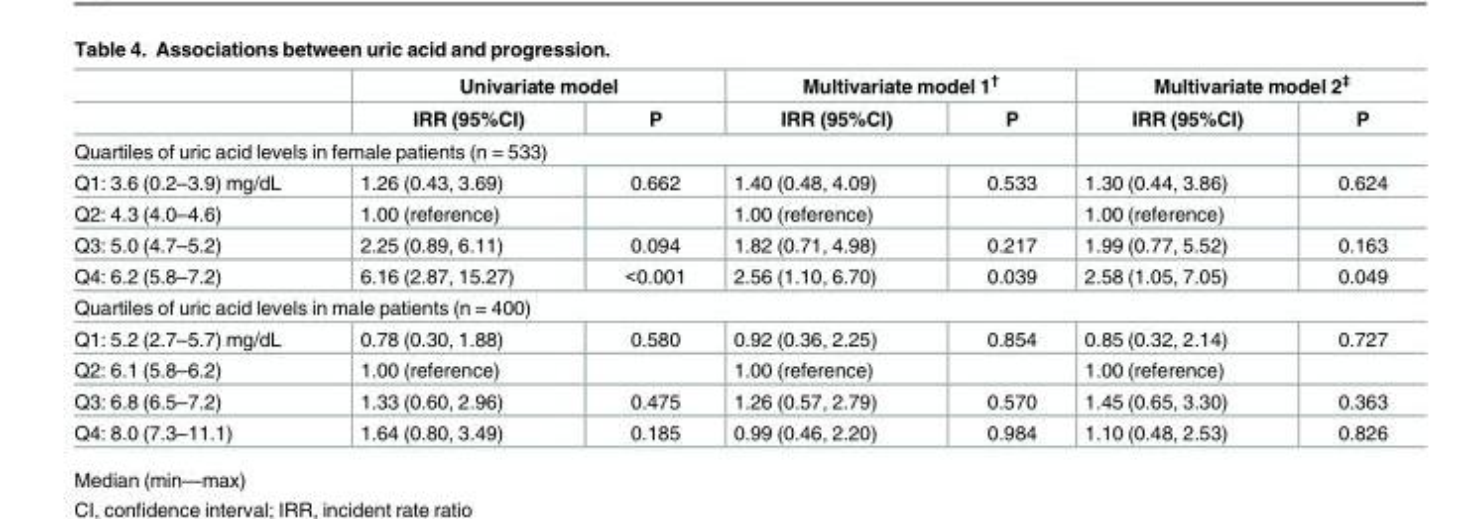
<table><thead><tr><td rowspan="2"></td><td colspan="2">Univariate model</td><td colspan="2">Multivariate model 1<sup>†</sup></td><td colspan="2">Multivariate model 2<sup>‡</sup></td></tr><tr><td>IRR (95%CI)</td><td>P</td><td>IRR (95%CI)</td><td>P</td><td>IRR (95%CI)</td><td>P</td></tr></thead><tbody><tr><td colspan="7">Quartiles of uric acid levels in female patients (n = 533)</td></tr><tr><td>Q1: 3.6 (0.2–3.9) mg/dL</td><td>1.26 (0.43, 3.69)</td><td>0.662</td><td>1.40 (0.48, 4.09)</td><td>0.533</td><td>1.30 (0.44, 3.86)</td><td>0.624</td></tr><tr><td>Q2: 4.3 (4.0–4.6)</td><td>1.00 (reference)</td><td></td><td>1.00 (reference)</td><td></td><td>1.00 (reference)</td><td></td></tr><tr><td>Q3: 5.0 (4.7–5.2)</td><td>2.25 (0.89, 6.11)</td><td>0.094</td><td>1.82 (0.71, 4.98)</td><td>0.217</td><td>1.99 (0.77, 5.52)</td><td>0.163</td></tr><tr><td>Q4: 6.2 (5.8–7.2)</td><td>6.16 (2.87, 15.27)</td><td>&lt;0.001</td><td>2.56 (1.10, 6.70)</td><td>0.039</td><td>2.58 (1.05, 7.05)</td><td>0.049</td></tr><tr><td colspan="7">Quartiles of uric acid levels in male patients (n = 400)</td></tr><tr><td>Q1: 5.2 (2.7–5.7) mg/dL</td><td>0.78 (0.30, 1.88)</td><td>0.580</td><td>0.92 (0.36, 2.25)</td><td>0.854</td><td>0.85 (0.32, 2.14)</td><td>0.727</td></tr><tr><td>Q2: 6.1 (5.8–6.2)</td><td>1.00 (reference)</td><td></td><td>1.00 (reference)</td><td></td><td>1.00 (reference)</td><td></td></tr><tr><td>Q3: 6.8 (6.5–7.2)</td><td>1.33 (0.60, 2.96)</td><td>0.475</td><td>1.26 (0.57, 2.79)</td><td>0.570</td><td>1.45 (0.65, 3.30)</td><td>0.363</td></tr><tr><td>Q4: 8.0 (7.3–11.1)</td><td>1.64 (0.80, 3.49)</td><td>0.185</td><td>0.99 (0.46, 2.20)</td><td>0.984</td><td>1.10 (0.48, 2.53)</td><td>0.826</td></tr></tbody></table>